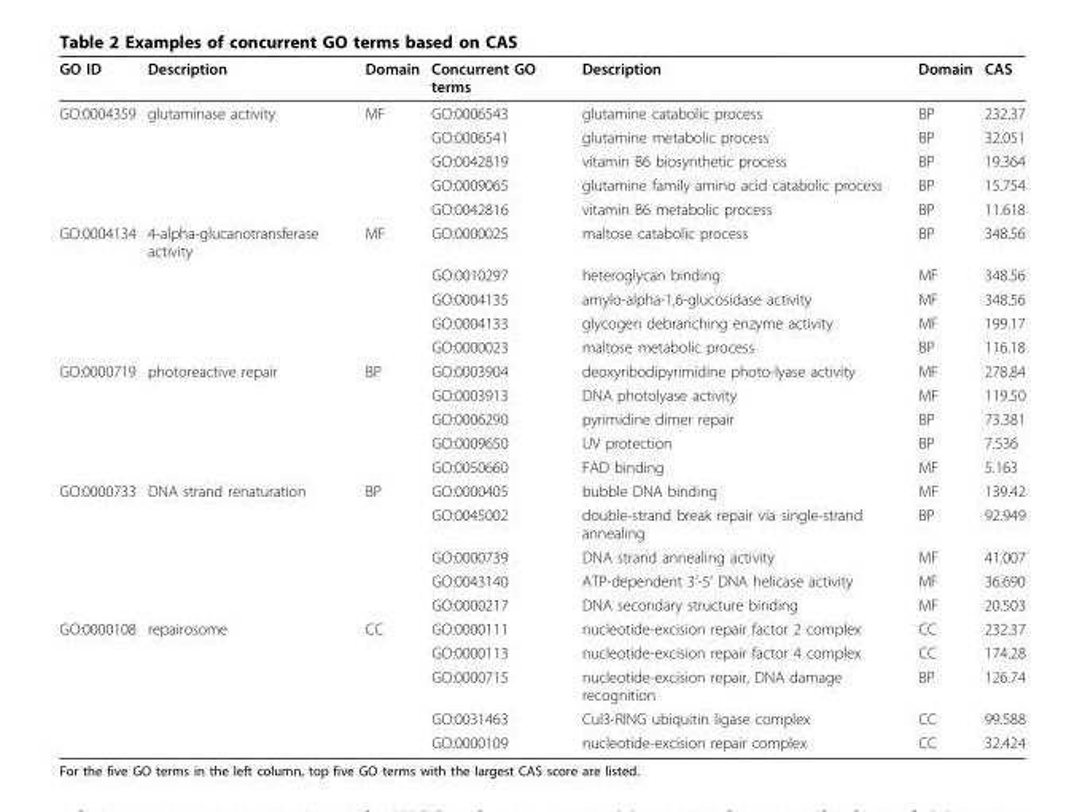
<table><thead><tr><td>GO ID</td><td>Description</td><td>Domain</td><td>Concurrent GO terms</td><td>Description</td><td>Domain</td><td>CAS</td></tr></thead><tbody><tr><td rowspan="5">GO:0004359</td><td>glutaminase activity</td><td>MF</td><td>GO:0006543</td><td>glutamine catabolic process</td><td>BP</td><td>232.37</td></tr><tr><td></td><td></td><td>GO:0006541</td><td>glutamine metabolic process</td><td>BP</td><td>32.051</td></tr><tr><td></td><td></td><td>GO:0042819</td><td>vitamin B6 biosynthetic process</td><td>BP</td><td>19.364</td></tr><tr><td></td><td></td><td>GO:0009065</td><td>glutamine family amino acid catabolic process</td><td>BP</td><td>15.754</td></tr><tr><td></td><td></td><td>GO:0042816</td><td>vitamin B6 metabolic process</td><td>BP</td><td>11.618</td></tr><tr><td rowspan="5">GO:0004134</td><td>4-alpha-glucanotransferase activity</td><td>MF</td><td>GO:0000025</td><td>maltose catabolic process</td><td>BP</td><td>348.56</td></tr><tr><td></td><td></td><td>GO:0010297</td><td>heteroglycan binding</td><td>MF</td><td>348.56</td></tr><tr><td></td><td></td><td>GO:0004135</td><td>amylo-alpha-1,6-glucosidase activity</td><td>MF</td><td>348.56</td></tr><tr><td></td><td></td><td>GO:0004133</td><td>glycogen debranching enzyme activity</td><td>MF</td><td>199.17</td></tr><tr><td></td><td></td><td>GO:0000023</td><td>maltose metabolic process</td><td>BP</td><td>116.18</td></tr><tr><td rowspan="5">GO:0000719</td><td>photoreactive repair</td><td>BP</td><td>GO:0003904</td><td>deoxyribodipyrimidine photo-lyase activity</td><td>MF</td><td>278.84</td></tr><tr><td></td><td></td><td>GO:0003913</td><td>DNA photolyase activity</td><td>MF</td><td>119.50</td></tr><tr><td></td><td></td><td>GO:0006290</td><td>pyrimidine dimer repair</td><td>BP</td><td>73.381</td></tr><tr><td></td><td></td><td>GO:0009650</td><td>UV protection</td><td>BP</td><td>7.536</td></tr><tr><td></td><td></td><td>GO:0050660</td><td>FAD binding</td><td>MF</td><td>5.163</td></tr><tr><td rowspan="5">GO:0000733</td><td>DNA strand renaturation</td><td>BP</td><td>GO:0000405</td><td>bubble DNA binding</td><td>MF</td><td>139.42</td></tr><tr><td></td><td></td><td>GO:0045002</td><td>double-strand break repair via single-strand annealing</td><td>BP</td><td>92.949</td></tr><tr><td></td><td></td><td>GO:0000739</td><td>DNA strand annealing activity</td><td>MF</td><td>41.007</td></tr><tr><td></td><td></td><td>GO:0043140</td><td>ATP-dependent 3’-5’ DNA helicase activity</td><td>MF</td><td>36.690</td></tr><tr><td></td><td></td><td>GO:0000217</td><td>DNA secondary structure binding</td><td>MF</td><td>20.503</td></tr><tr><td rowspan="5">GO:0000108</td><td>repairosome</td><td>CC</td><td>GO:0000111</td><td>nucleotide-excision repair factor 2 complex</td><td>CC</td><td>232.37</td></tr><tr><td></td><td></td><td>GO:0000113</td><td>nucleotide-excision repair factor 4 complex</td><td>CC</td><td>174.28</td></tr><tr><td></td><td></td><td>GO:0000715</td><td>nucleotide-excision repair, DNA damage recognition</td><td>BP</td><td>126.74</td></tr><tr><td></td><td></td><td>GO:0031463</td><td>Cul3-RING ubiquitin ligase complex</td><td>CC</td><td>99.588</td></tr><tr><td></td><td></td><td>GO:0000109</td><td>nucleotide-excision repair complex</td><td>CC</td><td>32.424</td></tr></tbody></table>